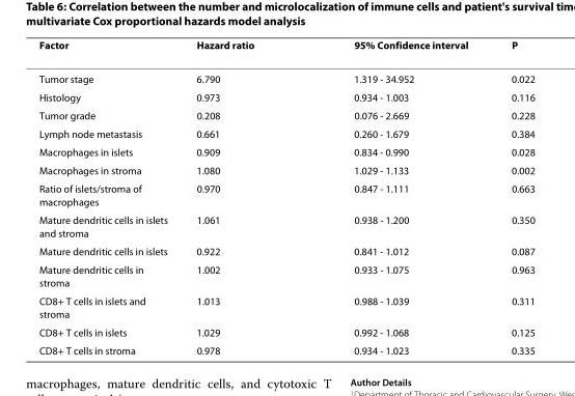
<table><thead><tr><td>Factor</td><td>Hazard ratio</td><td>95% Confidence interval</td><td>P</td></tr></thead><tbody><tr><td>Tumor stage</td><td>6.790</td><td>1.319 - 34.952</td><td>0.022</td></tr><tr><td>Histology</td><td>0.973</td><td>0.934 - 1.003</td><td>0.116</td></tr><tr><td>Tumor grade</td><td>0.208</td><td>0.076 - 2.669</td><td>0.228</td></tr><tr><td>Lymph node metastasis</td><td>0.661</td><td>0.260 - 1.679</td><td>0.384</td></tr><tr><td>Macrophages in islets</td><td>0.909</td><td>0.834 - 0.990</td><td>0.028</td></tr><tr><td>Macrophages in stroma</td><td>1.080</td><td>1.029 - 1.133</td><td>0.002</td></tr><tr><td>Ratio of islets/stroma of macrophages</td><td>0.970</td><td>0.847 - 1.111</td><td>0.663</td></tr><tr><td>Mature dendritic cells in islets and stroma</td><td>1.061</td><td>0.938 - 1.200</td><td>0.350</td></tr><tr><td>Mature dendritic cells in islets</td><td>0.922</td><td>0.841 - 1.012</td><td>0.087</td></tr><tr><td>Mature dendritic cells in stroma</td><td>1.002</td><td>0.933 - 1.075</td><td>0.963</td></tr><tr><td>CD8+ T cells in islets and stroma</td><td>1.013</td><td>0.988 - 1.039</td><td>0.311</td></tr><tr><td>CD8+ T cells in islets</td><td>1.029</td><td>0.992 - 1.068</td><td>0.125</td></tr><tr><td>CD8+ T cells in stroma</td><td>0.978</td><td>0.934 - 1.023</td><td>0.335</td></tr></tbody></table>